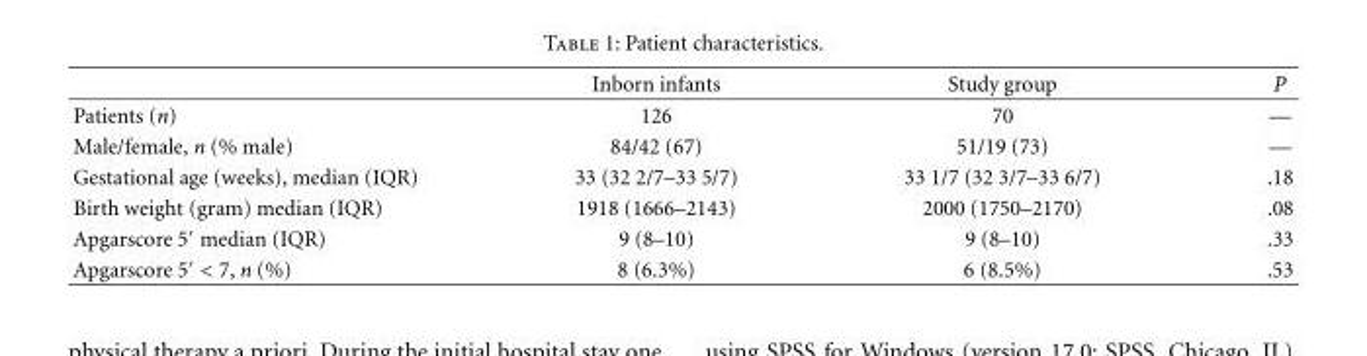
<table><thead><tr><td></td><td>Inborn infants</td><td>Study group</td><td>P</td></tr></thead><tbody><tr><td>Patients (n)</td><td>126</td><td>70</td><td>—</td></tr><tr><td>Male/female, n (% male)</td><td>84/42 (67)</td><td>51/19 (73)</td><td>—</td></tr><tr><td>Gestational age (weeks), median (IQR)</td><td>33 (32 2/7–33 5/7)</td><td>33 1/7 (32 3/7–33 6/7)</td><td>.18</td></tr><tr><td>Birth weight (gram) median (IQR)</td><td>1918 (1666–2143)</td><td>2000 (1750–2170)</td><td>.08</td></tr><tr><td>Apgarscore 5′ median (IQR)</td><td>9 (8–10)</td><td>9 (8–10)</td><td>.33</td></tr><tr><td>Apgarscore 5′ &lt; 7, n (%)</td><td>8 (6.3%)</td><td>6 (8.5%)</td><td>.53</td></tr></tbody></table>